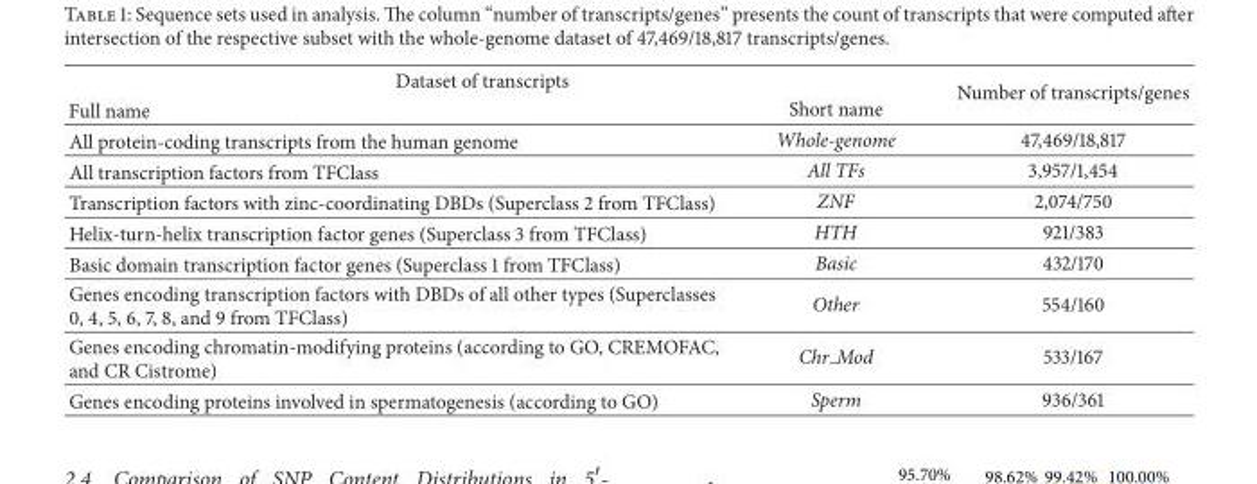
<table><thead><tr><td colspan="2">Dataset of transcripts</td><td rowspan="2">Number of transcripts/genes</td></tr><tr><td>Full name</td><td>Short name</td></tr></thead><tbody><tr><td>All protein-coding transcripts from the human genome</td><td>Whole-genome</td><td>47,469/18,817</td></tr><tr><td>All transcription factors from TFClass</td><td>All TFs</td><td>3,957/1,454</td></tr><tr><td>Transcription factors with zinc-coordinating DBDs (Superclass 2 from TFClass)</td><td>ZNF</td><td>2,074/750</td></tr><tr><td>Helix-turn-helix transcription factor genes (Superclass 3 from TFClass)</td><td>HTH</td><td>921/383</td></tr><tr><td>Basic domain transcription factor genes (Superclass 1 from TFClass)</td><td>Basic</td><td>432/170</td></tr><tr><td>Genes encoding transcription factors with DBDs of all other types (Superclasses 0, 4, 5, 6, 7, 8, and 9 from TFClass)</td><td>Other</td><td>554/160</td></tr><tr><td>Genes encoding chromatin-modifying proteins (according to GO, CREMOFAC, and CR Cistrome)</td><td>Chr Mod</td><td>533/167</td></tr><tr><td>Genes encoding proteins involved in spermatogenesis (according to GO)</td><td>Sperm</td><td>936/361</td></tr></tbody></table>